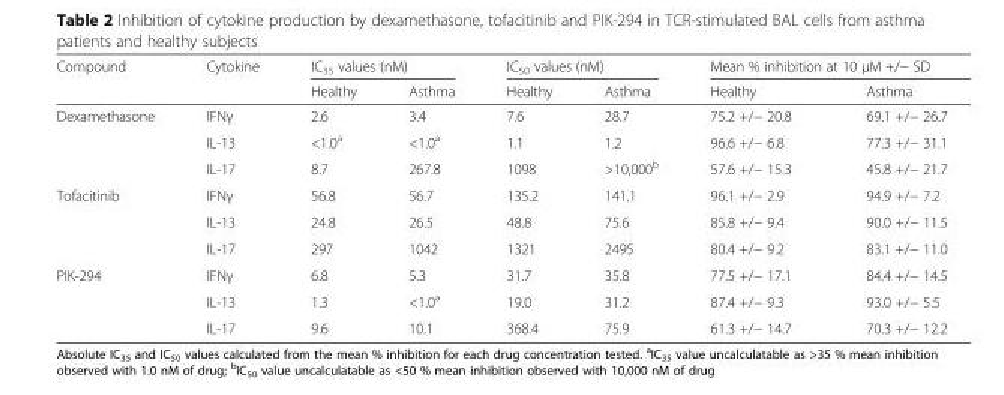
<table><thead><tr><td rowspan="2">Compound</td><td rowspan="2">Cytokine</td><td colspan="2">IC<sub>35</sub> values (nM)</td><td colspan="2">IC<sub>50</sub> values (nM)</td><td colspan="2">Mean % inhibition at 10 μM +/− SD</td></tr><tr><td>Healthy</td><td>Asthma</td><td>Healthy</td><td>Asthma</td><td>Healthy</td><td>Asthma</td></tr></thead><tbody><tr><td rowspan="3">Dexamethasone</td><td>IFNγ</td><td>2.6</td><td>3.4</td><td>7.6</td><td>28.7</td><td>75.2 +/− 20.8</td><td>69.1 +/− 26.7</td></tr><tr><td>IL-13</td><td>&lt;1.0<sup>a</sup></td><td>&lt;1.0<sup>a</sup></td><td>1.1</td><td>1.2</td><td>96.6 +/− 6.8</td><td>77.3 +/− 31.1</td></tr><tr><td>IL-17</td><td>8.7</td><td>267.8</td><td>1098</td><td>&gt;10,000<sup>b</sup></td><td>57.6 +/− 15.3</td><td>45.8 +/− 21.7</td></tr><tr><td rowspan="3">Tofacitinib</td><td>IFNγ</td><td>56.8</td><td>56.7</td><td>135.2</td><td>141.1</td><td>96.1 +/− 2.9</td><td>94.9 +/− 7.2</td></tr><tr><td>IL-13</td><td>24.8</td><td>26.5</td><td>48.8</td><td>75.6</td><td>85.8 +/− 9.4</td><td>90.0 +/− 11.5</td></tr><tr><td>IL-17</td><td>297</td><td>1042</td><td>1321</td><td>2495</td><td>80.4 +/− 9.2</td><td>83.1 +/− 11.0</td></tr><tr><td rowspan="3">PIK-294</td><td>IFNγ</td><td>6.8</td><td>5.3</td><td>31.7</td><td>35.8</td><td>77.5 +/− 17.1</td><td>84.4 +/− 14.5</td></tr><tr><td>IL-13</td><td>1.3</td><td>&lt;1.0<sup>a</sup></td><td>19.0</td><td>31.2</td><td>87.4 +/− 9.3</td><td>93.0 +/− 5.5</td></tr><tr><td>IL-17</td><td>9.6</td><td>10.1</td><td>368.4</td><td>75.9</td><td>61.3 +/− 14.7</td><td>70.3 +/− 12.2</td></tr></tbody></table>